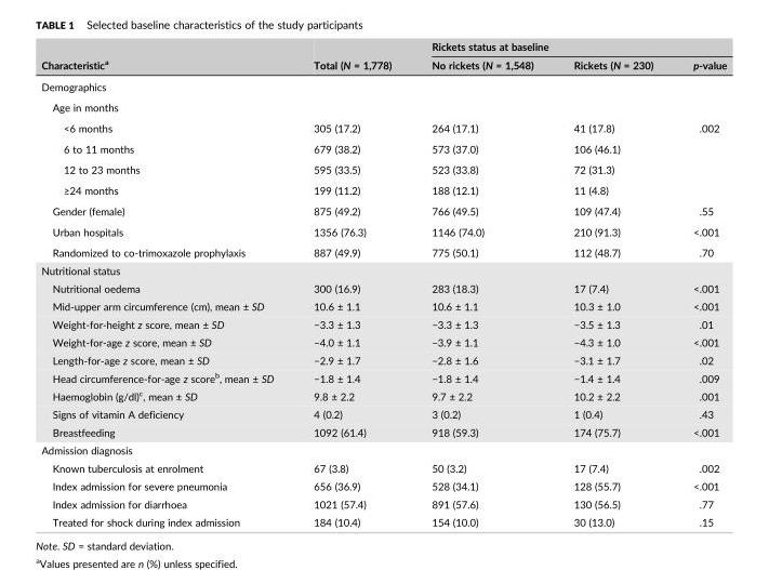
<table><thead><tr><td rowspan="2">Characteristic<sup>a</sup></td><td rowspan="2">Total (N = 1,778)</td><td colspan="3">Rickets status at baseline</td></tr><tr><td>No rickets (N = 1,548)</td><td>Rickets (N = 230)</td><td>p‐value</td></tr></thead><tbody><tr><td colspan="5">Demographics</td></tr><tr><td colspan="5">Age in months</td></tr><tr><td>&lt;6 months</td><td>305 (17.2)</td><td>264 (17.1)</td><td>41 (17.8)</td><td rowspan="4">.002</td></tr><tr><td>6 to 11 months</td><td>679 (38.2)</td><td>573 (37.0)</td><td>106 (46.1)</td></tr><tr><td>12 to 23 months</td><td>595 (33.5)</td><td>523 (33.8)</td><td>72 (31.3)</td></tr><tr><td>≥24 months</td><td>199 (11.2)</td><td>188 (12.1)</td><td>11 (4.8)</td></tr><tr><td>Gender (female)</td><td>875 (49.2)</td><td>766 (49.5)</td><td>109 (47.4)</td><td>.55</td></tr><tr><td>Urban hospitals</td><td>1356 (76.3)</td><td>1146 (74.0)</td><td>210 (91.3)</td><td>&lt;.001</td></tr><tr><td>Randomized to co‐trimoxazole prophylaxis</td><td>887 (49.9)</td><td>775 (50.1)</td><td>112 (48.7)</td><td>.70</td></tr><tr><td colspan="5">Nutritional status</td></tr><tr><td>Nutritional oedema</td><td>300 (16.9)</td><td>283 (18.3)</td><td>17 (7.4)</td><td>&lt;.001</td></tr><tr><td>Mid‐upper arm circumference (cm), mean ± SD</td><td>10.6 ± 1.1</td><td>10.6 ± 1.1</td><td>10.3 ± 1.0</td><td>&lt;.001</td></tr><tr><td>Weight‐for‐height z score, mean ± SD</td><td>−3.3 ± 1.3</td><td>−3.3 ± 1.3</td><td>−3.5 ± 1.3</td><td>.01</td></tr><tr><td>Weight‐for‐age z score, mean ± SD</td><td>−4.0 ± 1.1</td><td>−3.9 ± 1.1</td><td>−4.3 ± 1.0</td><td>&lt;.001</td></tr><tr><td>Length‐for‐age z score, mean ± SD</td><td>−2.9 ± 1.7</td><td>−2.8 ± 1.6</td><td>−3.1 ± 1.7</td><td>.02</td></tr><tr><td>Head circumference‐for‐age z score<sup>b</sup>, mean ± SD</td><td>−1.8 ± 1.4</td><td>−1.8 ± 1.4</td><td>−1.4 ± 1.4</td><td>.009</td></tr><tr><td>Haemoglobin (g/dl)<sup>c</sup>, mean ± SD</td><td>9.8 ± 2.2</td><td>9.7 ± 2.2</td><td>10.2 ± 2.2</td><td>.001</td></tr><tr><td>Signs of vitamin A deficiency</td><td>4 (0.2)</td><td>3 (0.2)</td><td>1 (0.4)</td><td>.43</td></tr><tr><td>Breastfeeding</td><td>1092 (61.4)</td><td>918 (59.3)</td><td>174 (75.7)</td><td>&lt;.001</td></tr><tr><td colspan="5">Admission diagnosis</td></tr><tr><td>Known tuberculosis at enrolment</td><td>67 (3.8)</td><td>50 (3.2)</td><td>17 (7.4)</td><td>.002</td></tr><tr><td>Index admission for severe pneumonia</td><td>656 (36.9)</td><td>528 (34.1)</td><td>128 (55.7)</td><td>&lt;.001</td></tr><tr><td>Index admission for diarrhoea</td><td>1021 (57.4)</td><td>891 (57.6)</td><td>130 (56.5)</td><td>.77</td></tr><tr><td>Treated for shock during index admission</td><td>184 (10.4)</td><td>154 (10.0)</td><td>30 (13.0)</td><td>.15</td></tr></tbody></table>